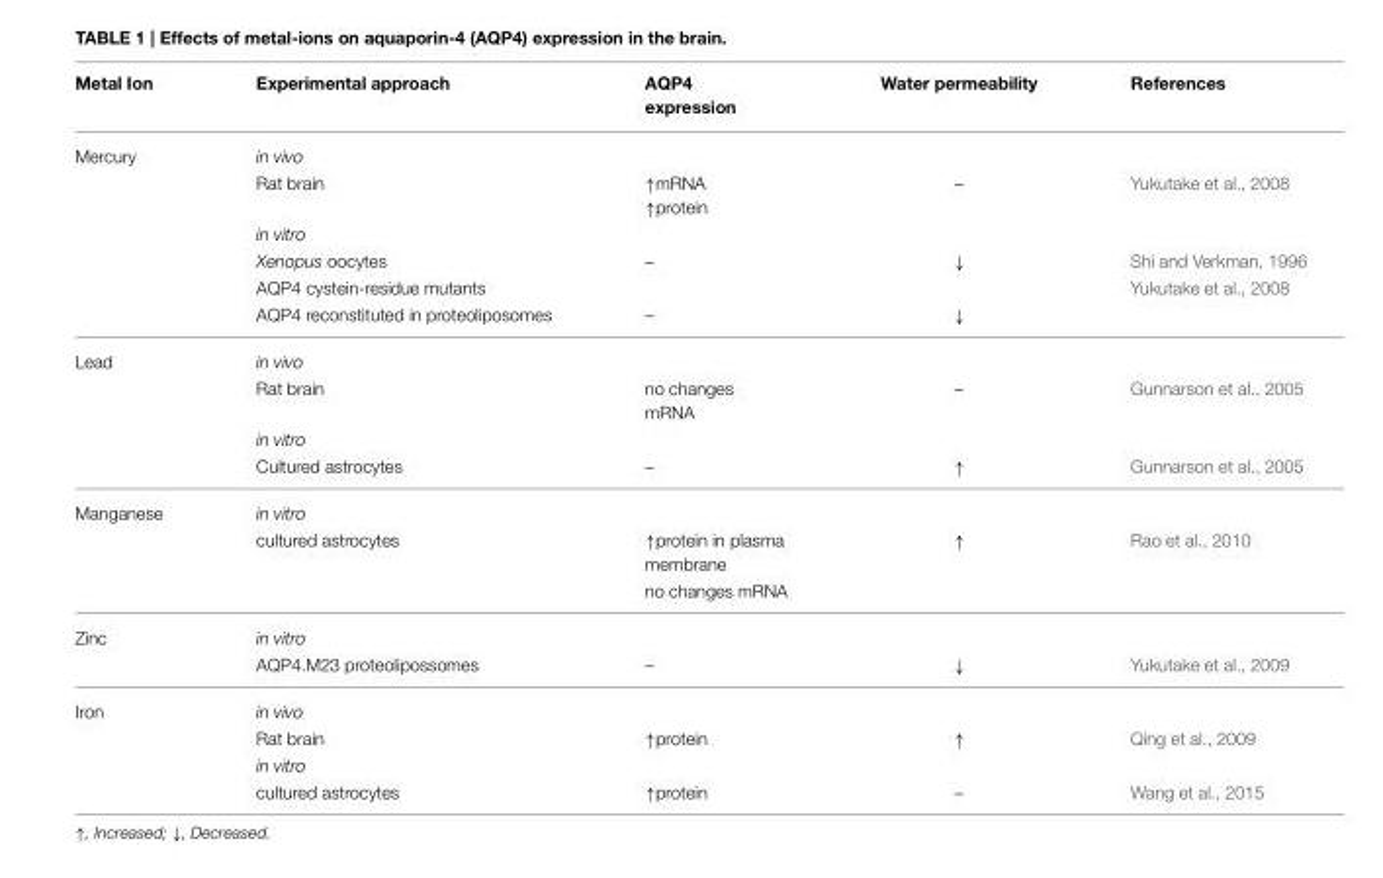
<table><thead><tr><td>Metal Ion</td><td>Experimental approach</td><td>AQP4 expression</td><td>Water permeability</td><td>References</td></tr></thead><tbody><tr><td rowspan="6">Mercury</td><td colspan="4">in vivo</td></tr><tr><td>Rat brain</td><td>↑mRNA ↑protein</td><td>–</td><td>Yukutake et al., 2008</td></tr><tr><td colspan="4">in vitro</td></tr><tr><td>Xenopus oocytes</td><td>–</td><td>↓</td><td>Shi and Verkman, 1996</td></tr><tr><td>AQP4 cystein-residue mutants</td><td></td><td></td><td>Yukutake et al., 2008</td></tr><tr><td>AQP4 reconstituted in proteoliposomes</td><td>–</td><td>↓</td><td></td></tr><tr><td rowspan="4">Lead</td><td colspan="4">in vivo</td></tr><tr><td>Rat brain</td><td>no changes mRNA</td><td>–</td><td>Gunnarson et al., 2005</td></tr><tr><td colspan="4">in vitro</td></tr><tr><td>Cultured astrocytes</td><td>–</td><td>↑</td><td>Gunnarson et al., 2005</td></tr><tr><td rowspan="3">Manganese</td><td colspan="4">in vitro</td></tr><tr><td>cultured astrocytes</td><td>↑protein in plasma membrane</td><td>↑</td><td>Rao et al., 2010</td></tr><tr><td></td><td>no changes mRNA</td><td></td><td></td></tr><tr><td rowspan="2">Zinc</td><td colspan="4">in vitro</td></tr><tr><td>AQP4.M23 proteolipossomes</td><td>–</td><td>↓</td><td>Yukutake et al., 2009</td></tr><tr><td rowspan="4">Iron</td><td colspan="4">in vivo</td></tr><tr><td>Rat brain</td><td>↑protein</td><td>↑</td><td>Qing et al., 2009</td></tr><tr><td colspan="4">in vitro</td></tr><tr><td>cultured astrocytes</td><td>↑protein</td><td>–</td><td>Wang et al., 2015</td></tr></tbody></table>